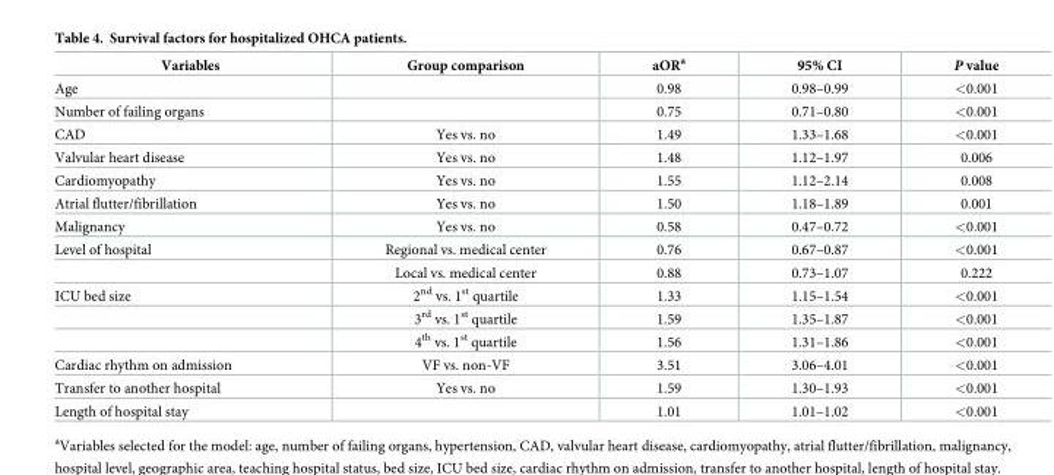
<table><thead><tr><td>Variables</td><td>Group comparison</td><td>aOR<sup>a</sup></td><td>95% CI</td><td>P value</td></tr></thead><tbody><tr><td>Age</td><td></td><td>0.98</td><td>0.98–0.99</td><td>&lt;0.001</td></tr><tr><td>Number of failing organs</td><td></td><td>0.75</td><td>0.71–0.80</td><td>&lt;0.001</td></tr><tr><td>CAD</td><td>Yes vs. no</td><td>1.49</td><td>1.33–1.68</td><td>&lt;0.001</td></tr><tr><td>Valvular heart disease</td><td>Yes vs. no</td><td>1.48</td><td>1.12–1.97</td><td>0.006</td></tr><tr><td>Cardiomyopathy</td><td>Yes vs. no</td><td>1.55</td><td>1.12–2.14</td><td>0.008</td></tr><tr><td>Atrial flutter/fibrillation</td><td>Yes vs. no</td><td>1.50</td><td>1.18–1.89</td><td>0.001</td></tr><tr><td>Malignancy</td><td>Yes vs. no</td><td>0.58</td><td>0.47–0.72</td><td>&lt;0.001</td></tr><tr><td rowspan="2">Level of hospital</td><td>Regional vs. medical center</td><td>0.76</td><td>0.67–0.87</td><td>&lt;0.001</td></tr><tr><td>Local vs. medical center</td><td>0.88</td><td>0.73–1.07</td><td>0.222</td></tr><tr><td rowspan="3">ICU bed size</td><td>2<sup>nd</sup> vs. 1<sup>st</sup> quartile</td><td>1.33</td><td>1.15–1.54</td><td>&lt;0.001</td></tr><tr><td>3<sup>rd</sup> vs. 1<sup>st</sup> quartile</td><td>1.59</td><td>1.35–1.87</td><td>&lt;0.001</td></tr><tr><td>4<sup>th</sup> vs. 1<sup>st</sup> quartile</td><td>1.56</td><td>1.31–1.86</td><td>&lt;0.001</td></tr><tr><td>Cardiac rhythm on admission</td><td>VF vs. non-VF</td><td>3.51</td><td>3.06–4.01</td><td>&lt;0.001</td></tr><tr><td>Transfer to another hospital</td><td>Yes vs. no</td><td>1.59</td><td>1.30–1.93</td><td>&lt;0.001</td></tr><tr><td>Length of hospital stay</td><td></td><td>1.01</td><td>1.01–1.02</td><td>&lt;0.001</td></tr></tbody></table>